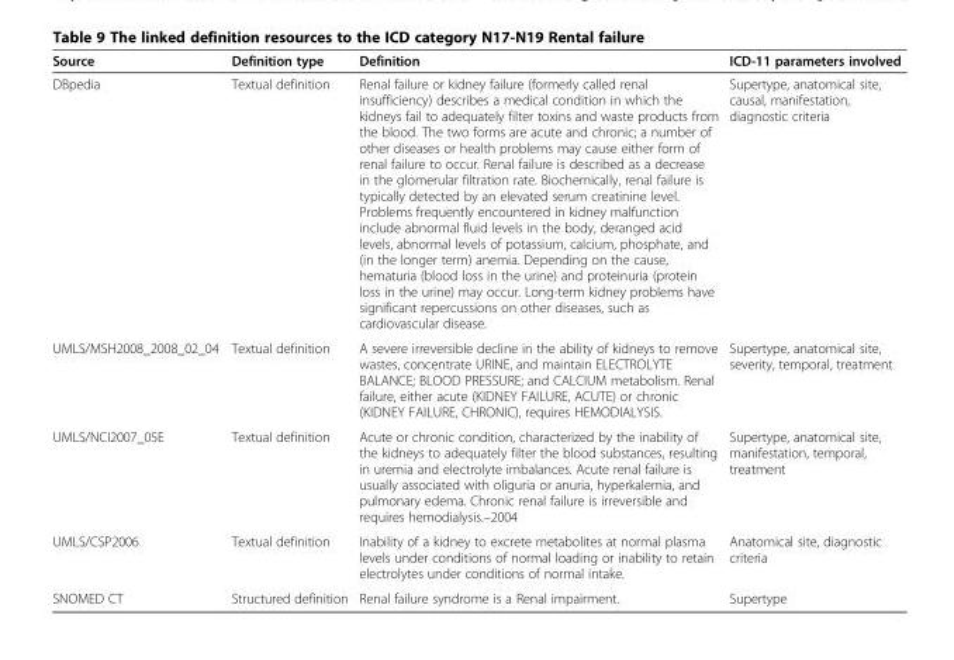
<table><thead><tr><td>Source</td><td>Definition type</td><td>Definition</td><td>ICD-11 parameters involved</td></tr></thead><tbody><tr><td>DBpedia</td><td>Textual definition</td><td>Renal failure or kidney failure (formerly called renal insufficiency) describes a medical condition in which the kidneys fail to adequately filter toxins and waste products from the blood. The two forms are acute and chronic; a number of other diseases or health problems may cause either form of renal failure to occur. Renal failure is described as a decrease in the glomerular filtration rate. Biochemically, renal failure is typically detected by an elevated serum creatinine level. Problems frequently encountered in kidney malfunction include abnormal fluid levels in the body, deranged acid levels, abnormal levels of potassium, calcium, phosphate, and (in the longer term) anemia. Depending on the cause, hematuria (blood loss in the urine) and proteinuria (protein loss in the urine) may occur. Long-term kidney problems have significant repercussions on other diseases, such as cardiovascular disease.</td><td>Supertype, anatomical site, causal, manifestation, diagnostic criteria</td></tr><tr><td>UMLS/MSH2008_2008_02_04</td><td>Textual definition</td><td>A severe irreversible decline in the ability of kidneys to remove wastes, concentrate URINE, and maintain ELECTROLYTE BALANCE; BLOOD PRESSURE; and CALCIUM metabolism. Renal failure, either acute (KIDNEY FAILURE, ACUTE) or chronic (KIDNEY FAILURE, CHRONIC), requires HEMODIALYSIS.</td><td>Supertype, anatomical site, severity, temporal, treatment</td></tr><tr><td>UMLS/NCI2007_05E</td><td>Textual definition</td><td>Acute or chronic condition, characterized by the inability of the kidneys to adequately filter the blood substances, resulting in uremia and electrolyte imbalances. Acute renal failure is usually associated with oliguria or anuria, hyperkalemia, and pulmonary edema. Chronic renal failure is irreversible and requires hemodialysis.–2004</td><td>Supertype, anatomical site, manifestation, temporal, treatment</td></tr><tr><td>UMLS/CSP2006</td><td>Textual definition</td><td>Inability of a kidney to excrete metabolites at normal plasma levels under conditions of normal loading or inability to retain electrolytes under conditions of normal intake.</td><td>Anatomical site, diagnostic criteria</td></tr><tr><td>SNOMED CT</td><td>Structured definition</td><td>Renal failure syndrome is a Renal impairment.</td><td>Supertype</td></tr></tbody></table>